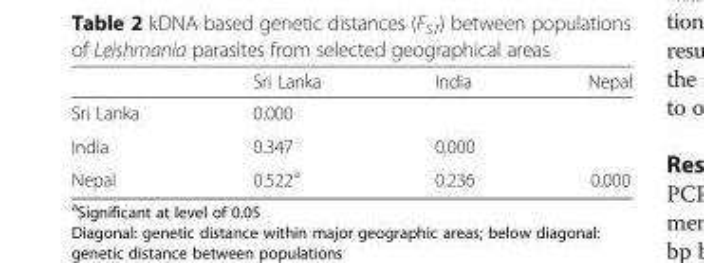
<table><thead><tr><td></td><td>Sri Lanka</td><td>India</td><td>Nepal</td></tr></thead><tbody><tr><td>Sri Lanka</td><td>0.000</td><td></td><td></td></tr><tr><td>India</td><td>0.347</td><td>0.000</td><td></td></tr><tr><td>Nepal</td><td>0.522<sup>a</sup></td><td>0.236</td><td>0.000</td></tr></tbody></table>